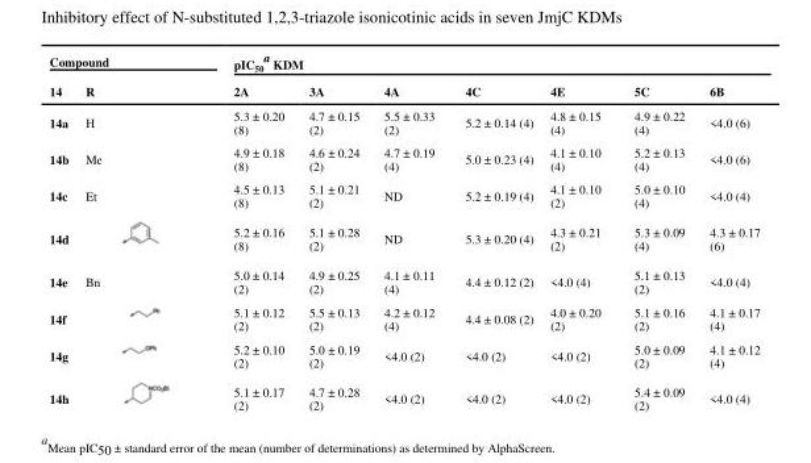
<table><thead><tr><td colspan="2">Compound</td><td colspan="7">pIC<sub>50</sub><sup>a</sup> KDM</td></tr><tr><td>14</td><td>R</td><td>2A</td><td>3A</td><td>4A</td><td>4C</td><td>4E</td><td>5C</td><td>6B</td></tr></thead><tbody><tr><td>14a</td><td>H</td><td>5.3 ± 0.20 (8)</td><td>4.7 ± 0.15 (2)</td><td>5.5 ± 0.33 (2)</td><td>5.2 ± 0.14 (4)</td><td>4.8 ± 0.15 (4)</td><td>4.9 ± 0.22 (4)</td><td>&lt;4.0 (6)</td></tr><tr><td>14b</td><td>Me</td><td>4.9 ± 0.18 (8)</td><td>4.6 ± 0.24 (2)</td><td>4.7 ± 0.19 (4)</td><td>5.0 ± 0.23 (4)</td><td>4.1 ± 0.10 (4)</td><td>5.2 ± 0.13 (4)</td><td>&lt;4.0 (6)</td></tr><tr><td>14c</td><td>Et</td><td>4.5 ± 0.13 (8)</td><td>5.1 ± 0.21 (2)</td><td>ND</td><td>5.2 ± 0.19 (4)</td><td>4.1 ± 0.10 (2)</td><td>5.0 ± 0.10 (4)</td><td>&lt;4.0 (4)</td></tr><tr><td>14d</td><td></td><td>5.2 ± 0.16 (8)</td><td>5.1 ± 0.28 (2)</td><td>ND</td><td>5.3 ± 0.20 (4)</td><td>4.3 ± 0.21 (2)</td><td>5.3 ± 0.09 (4)</td><td>4.3 ± 0.17 (6)</td></tr><tr><td>14e</td><td>Bn</td><td>5.0 ± 0.14 (2)</td><td>4.9 ± 0.25 (2)</td><td>4.1 ± 0.11 (4)</td><td>4.4 ± 0.12 (2)</td><td>&lt;4.0 (4)</td><td>5.1 ± 0.13 (2)</td><td>&lt;4.0 (4)</td></tr><tr><td>14f</td><td></td><td>5.1 ± 0.12 (2)</td><td>5.5 ± 0.13 (2)</td><td>4.2 ± 0.12 (4)</td><td>4.4 ± 0.08 (2)</td><td>4.0 ± 0.20 (2)</td><td>5.1 ± 0.16 (2)</td><td>4.1 ± 0.17 (4)</td></tr><tr><td>14g</td><td></td><td>5.2 ± 0.10 (2)</td><td>5.0 ± 0.19 (2)</td><td>&lt;4.0 (2)</td><td>&lt;4.0 (2)</td><td>&lt;4.0 (2)</td><td>5.0 ± 0.09 (2)</td><td>4.1 ± 0.12 (4)</td></tr><tr><td>14h</td><td></td><td>5.1 ± 0.17 (2)</td><td>4.7 ± 0.28 (2)</td><td>&lt;4.0 (2)</td><td>&lt;4.0 (2)</td><td>&lt;4.0 (2)</td><td>5.4 ± 0.09 (2)</td><td>&lt;4.0 (4)</td></tr></tbody></table>